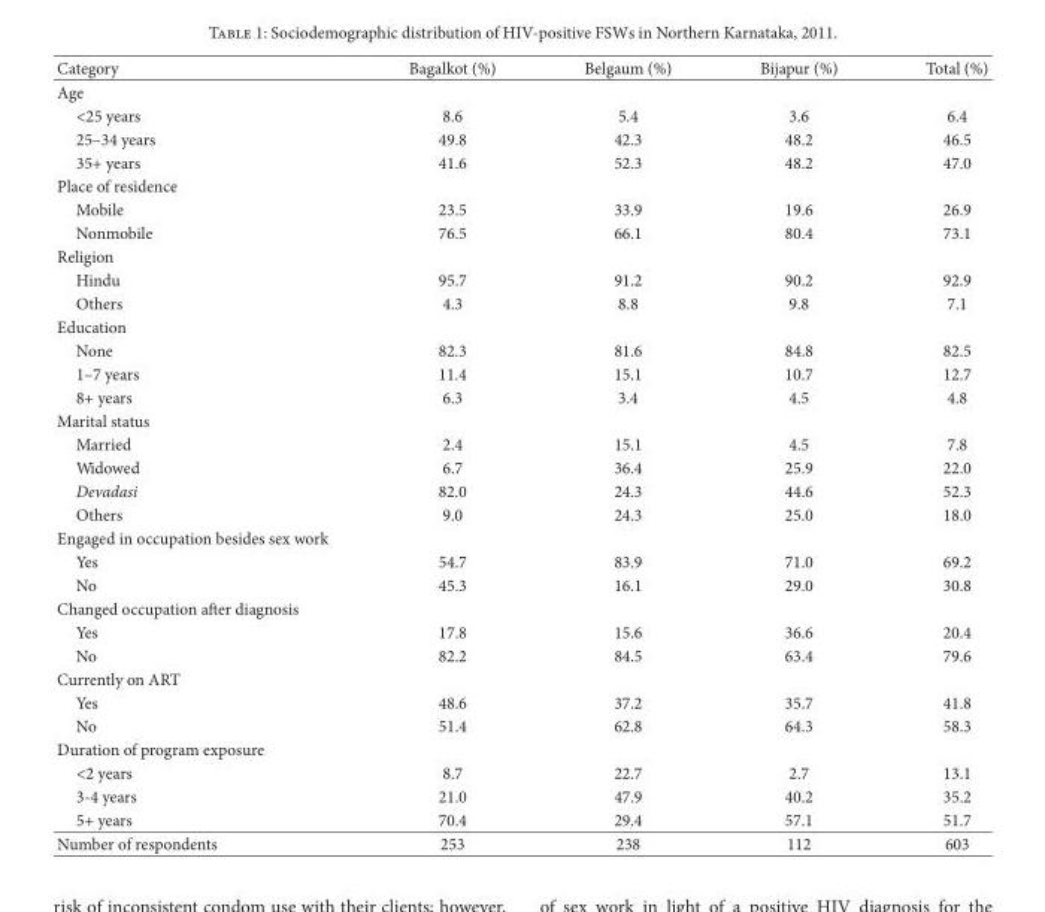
<table><thead><tr><td>Category</td><td>Bagalkot (%)</td><td>Belgaum (%)</td><td>Bijapur (%)</td><td>Total (%)</td></tr></thead><tbody><tr><td colspan="5">Age</td></tr><tr><td>&lt;25 years</td><td>8.6</td><td>5.4</td><td>3.6</td><td>6.4</td></tr><tr><td>25–34 years</td><td>49.8</td><td>42.3</td><td>48.2</td><td>46.5</td></tr><tr><td>35+ years</td><td>41.6</td><td>52.3</td><td>48.2</td><td>47.0</td></tr><tr><td colspan="5">Place of residence</td></tr><tr><td>Mobile</td><td>23.5</td><td>33.9</td><td>19.6</td><td>26.9</td></tr><tr><td>Nonmobile</td><td>76.5</td><td>66.1</td><td>80.4</td><td>73.1</td></tr><tr><td colspan="5">Religion</td></tr><tr><td>Hindu</td><td>95.7</td><td>91.2</td><td>90.2</td><td>92.9</td></tr><tr><td>Others</td><td>4.3</td><td>8.8</td><td>9.8</td><td>7.1</td></tr><tr><td colspan="5">Education</td></tr><tr><td>None</td><td>82.3</td><td>81.6</td><td>84.8</td><td>82.5</td></tr><tr><td>1–7 years</td><td>11.4</td><td>15.1</td><td>10.7</td><td>12.7</td></tr><tr><td>8+ years</td><td>6.3</td><td>3.4</td><td>4.5</td><td>4.8</td></tr><tr><td colspan="5">Marital status</td></tr><tr><td>Married</td><td>2.4</td><td>15.1</td><td>4.5</td><td>7.8</td></tr><tr><td>Widowed</td><td>6.7</td><td>36.4</td><td>25.9</td><td>22.0</td></tr><tr><td>Devadasi</td><td>82.0</td><td>24.3</td><td>44.6</td><td>52.3</td></tr><tr><td>Others</td><td>9.0</td><td>24.3</td><td>25.0</td><td>18.0</td></tr><tr><td colspan="5">Engaged in occupation besides sex work</td></tr><tr><td>Yes</td><td>54.7</td><td>83.9</td><td>71.0</td><td>69.2</td></tr><tr><td>No</td><td>45.3</td><td>16.1</td><td>29.0</td><td>30.8</td></tr><tr><td colspan="5">Changed occupation aer diagnosis</td></tr><tr><td>Yes</td><td>17.8</td><td>15.6</td><td>36.6</td><td>20.4</td></tr><tr><td>No</td><td>82.2</td><td>84.5</td><td>63.4</td><td>79.6</td></tr><tr><td colspan="5">Currently on ART</td></tr><tr><td>Yes</td><td>48.6</td><td>37.2</td><td>35.7</td><td>41.8</td></tr><tr><td>No</td><td>51.4</td><td>62.8</td><td>64.3</td><td>58.3</td></tr><tr><td colspan="5">Duration of program exposure</td></tr><tr><td>&lt;2 years</td><td>8.7</td><td>22.7</td><td>2.7</td><td>13.1</td></tr><tr><td>3-4 years</td><td>21.0</td><td>47.9</td><td>40.2</td><td>35.2</td></tr><tr><td>5+ years</td><td>70.4</td><td>29.4</td><td>57.1</td><td>51.7</td></tr><tr><td>Number of respondents</td><td>253</td><td>238</td><td>112</td><td>603</td></tr></tbody></table>